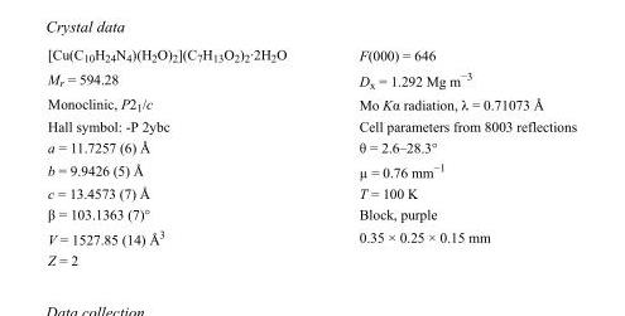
<table><tbody><tr><td>[Cu(C<sub>10</sub>H<sub>24</sub>N<sub>4</sub>)(H<sub>2</sub>O)<sub>2</sub>](C<sub>7</sub>H<sub>13</sub>O<sub>2</sub>)<sub>2</sub>·2H<sub>2</sub>O</td><td>F(000) = 646</td></tr><tr><td>M<sub>r</sub> = 594.28</td><td>D<sub>x</sub> = 1.292 Mg m<sup>−3</sup></td></tr><tr><td>Monoclinic, P2<sub>1</sub>/c</td><td>Mo Kα radiation, λ = 0.71073 Å</td></tr><tr><td>Hall symbol: -P 2ybc</td><td>Cell parameters from 8003 reflections</td></tr><tr><td>a = 11.7257 (6) Å</td><td>θ = 2.6–28.3°</td></tr><tr><td>b = 9.9426 (5) Å</td><td>µ = 0.76 mm<sup>−1</sup></td></tr><tr><td>c = 13.4573 (7) Å</td><td>T = 100 K</td></tr><tr><td>β = 103.1363 (7)°</td><td>Block, purple</td></tr><tr><td>V = 1527.85 (14) Å<sup>3</sup></td><td>0.35 × 0.25 × 0.15 mm</td></tr><tr><td>Z = 2</td><td></td></tr></tbody></table>